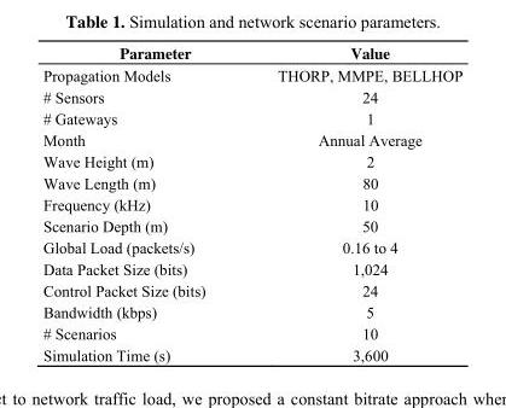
<table><thead><tr><td>Parameter</td><td>Value</td></tr></thead><tbody><tr><td>Propagation Models</td><td>THORP, MMPE, BELLHOP</td></tr><tr><td># Sensors</td><td>24</td></tr><tr><td># Gateways</td><td>1</td></tr><tr><td>Month</td><td>Annual Average</td></tr><tr><td>Wave Height (m)</td><td>2</td></tr><tr><td>Wave Length (m)</td><td>80</td></tr><tr><td>Frequency (kHz)</td><td>10</td></tr><tr><td>Scenario Depth (m)</td><td>50</td></tr><tr><td>Global Load (packets/s)</td><td>0.16 to 4</td></tr><tr><td>Data Packet Size (bits)</td><td>1,024</td></tr><tr><td>Control Packet Size (bits)</td><td>24</td></tr><tr><td>Bandwidth (kbps)</td><td>5</td></tr><tr><td># Scenarios</td><td>10</td></tr><tr><td>Simulation Time (s)</td><td>3,600</td></tr></tbody></table>